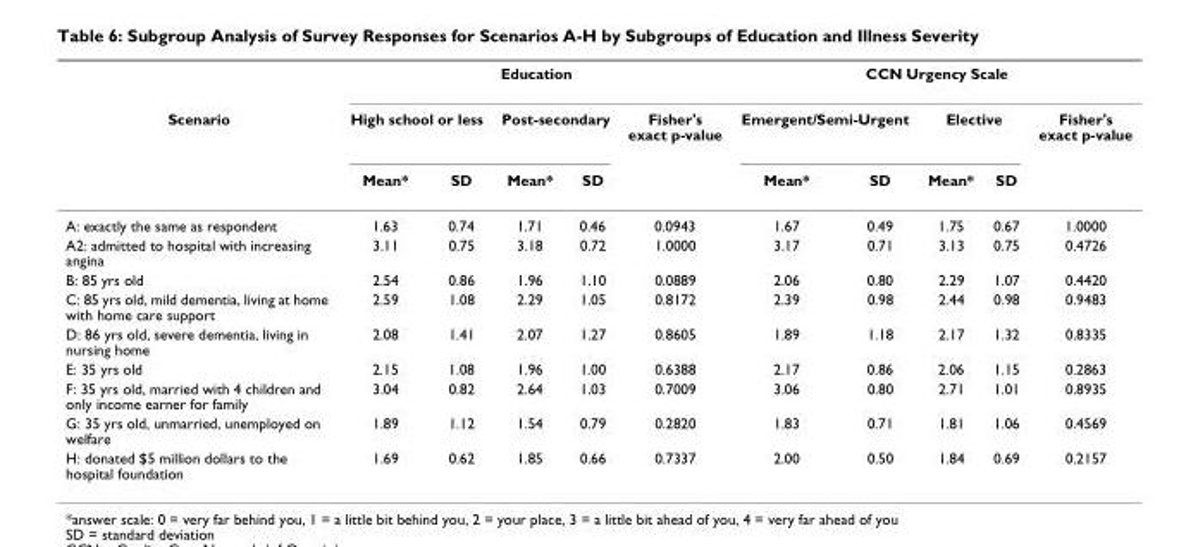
<table><thead><tr><td rowspan="3">Scenario</td><td colspan="5">Education</td><td colspan="5">CCN Urgency Scale</td></tr><tr><td colspan="2">High school or less</td><td colspan="2">Post-secondary</td><td rowspan="2">Fisher&#x27;s exact p-value</td><td colspan="2">Emergent/Semi-Urgent</td><td colspan="2">Elective</td><td rowspan="2">Fisher&#x27;s exact p-value</td></tr><tr><td>Mean*</td><td>SD</td><td>Mean*</td><td>SD</td><td>Mean*</td><td>SD</td><td>Mean*</td><td>SD</td></tr></thead><tbody><tr><td>A: exactly the same as respondent</td><td>1.63</td><td>0.74</td><td>1.71</td><td>0.46</td><td>0.0943</td><td>1.67</td><td>0.49</td><td>1.75</td><td>0.67</td><td>1.0000</td></tr><tr><td>A2: admitted to hospital with increasing angina</td><td>3.11</td><td>0.75</td><td>3.18</td><td>0.72</td><td>1.0000</td><td>3.17</td><td>0.71</td><td>3.13</td><td>0.75</td><td>0.4726</td></tr><tr><td>B: 85 yrs old</td><td>2.54</td><td>0.86</td><td>1.96</td><td>1.10</td><td>0.0889</td><td>2.06</td><td>0.80</td><td>2.29</td><td>1.07</td><td>0.4420</td></tr><tr><td>C: 85 yrs old, mild dementia, living at home with home care support</td><td>2.59</td><td>1.08</td><td>2.29</td><td>1.05</td><td>0.8172</td><td>2.39</td><td>0.98</td><td>2.44</td><td>0.98</td><td>0.9483</td></tr><tr><td>D: 86 yrs old, severe dementia, living in nursing home</td><td>2.08</td><td>1.41</td><td>2.07</td><td>1.27</td><td>0.8605</td><td>1.89</td><td>1.18</td><td>2.17</td><td>1.32</td><td>0.8335</td></tr><tr><td>E: 35 yrs old</td><td>2.15</td><td>1.08</td><td>1.96</td><td>1.00</td><td>0.6388</td><td>2.17</td><td>0.86</td><td>2.06</td><td>1.15</td><td>0.2863</td></tr><tr><td>F: 35 yrs old, married with 4 children and only income earner for family</td><td>3.04</td><td>0.82</td><td>2.64</td><td>1.03</td><td>0.7009</td><td>3.06</td><td>0.80</td><td>2.71</td><td>1.01</td><td>0.8935</td></tr><tr><td>G: 35 yrs old, unmarried, unemployed on welfare</td><td>1.89</td><td>1.12</td><td>1.54</td><td>0.79</td><td>0.2820</td><td>1.83</td><td>0.71</td><td>1.81</td><td>1.06</td><td>0.4569</td></tr><tr><td>H: donated $5 million dollars to the hospital foundation</td><td>1.69</td><td>0.62</td><td>1.85</td><td>0.66</td><td>0.7337</td><td>2.00</td><td>0.50</td><td>1.84</td><td>0.69</td><td>0.2157</td></tr></tbody></table>